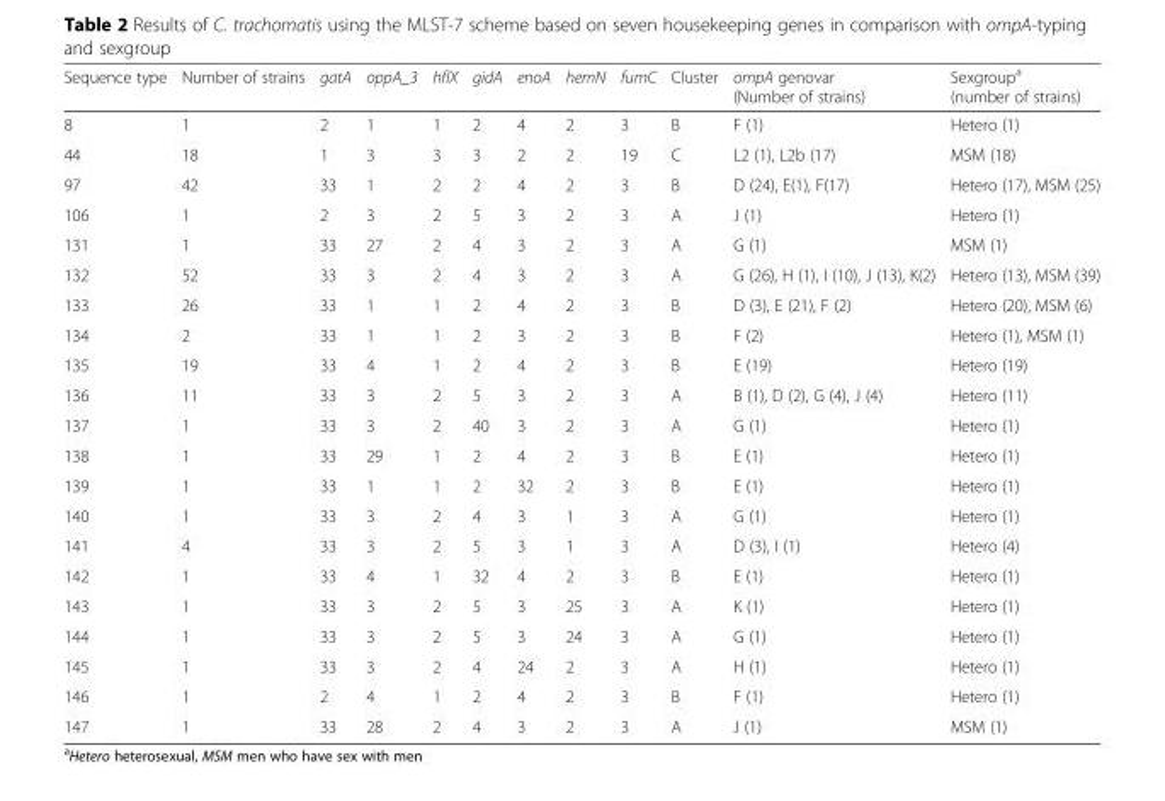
<table><thead><tr><td>Sequence type</td><td>Number of strains</td><td>gatA</td><td>oppA_3</td><td>hflX</td><td>gidA</td><td>enoA</td><td>hemN</td><td>fumC</td><td>Cluster</td><td>ompA genovar (Number of strains)</td><td>Sexgroup<sup>a</sup> (number of strains)</td></tr></thead><tbody><tr><td>8</td><td>1</td><td>2</td><td>1</td><td>1</td><td>2</td><td>4</td><td>2</td><td>3</td><td>B</td><td>F (1)</td><td>Hetero (1)</td></tr><tr><td>44</td><td>18</td><td>1</td><td>3</td><td>3</td><td>3</td><td>2</td><td>2</td><td>19</td><td>C</td><td>L2 (1), L2b (17)</td><td>MSM (18)</td></tr><tr><td>97</td><td>42</td><td>33</td><td>1</td><td>2</td><td>2</td><td>4</td><td>2</td><td>3</td><td>B</td><td>D (24), E(1), F(17)</td><td>Hetero (17), MSM (25)</td></tr><tr><td>106</td><td>1</td><td>2</td><td>3</td><td>2</td><td>5</td><td>3</td><td>2</td><td>3</td><td>A</td><td>J (1)</td><td>Hetero (1)</td></tr><tr><td>131</td><td>1</td><td>33</td><td>27</td><td>2</td><td>4</td><td>3</td><td>2</td><td>3</td><td>A</td><td>G (1)</td><td>MSM (1)</td></tr><tr><td>132</td><td>52</td><td>33</td><td>3</td><td>2</td><td>4</td><td>3</td><td>2</td><td>3</td><td>A</td><td>G (26), H (1), I (10), J (13), K(2)</td><td>Hetero (13), MSM (39)</td></tr><tr><td>133</td><td>26</td><td>33</td><td>1</td><td>1</td><td>2</td><td>4</td><td>2</td><td>3</td><td>B</td><td>D (3), E (21), F (2)</td><td>Hetero (20), MSM (6)</td></tr><tr><td>134</td><td>2</td><td>33</td><td>1</td><td>1</td><td>2</td><td>3</td><td>2</td><td>3</td><td>B</td><td>F (2)</td><td>Hetero (1), MSM (1)</td></tr><tr><td>135</td><td>19</td><td>33</td><td>4</td><td>1</td><td>2</td><td>4</td><td>2</td><td>3</td><td>B</td><td>E (19)</td><td>Hetero (19)</td></tr><tr><td>136</td><td>11</td><td>33</td><td>3</td><td>2</td><td>5</td><td>3</td><td>2</td><td>3</td><td>A</td><td>B (1), D (2), G (4), J (4)</td><td>Hetero (11)</td></tr><tr><td>137</td><td>1</td><td>33</td><td>3</td><td>2</td><td>40</td><td>3</td><td>2</td><td>3</td><td>A</td><td>G (1)</td><td>Hetero (1)</td></tr><tr><td>138</td><td>1</td><td>33</td><td>29</td><td>1</td><td>2</td><td>4</td><td>2</td><td>3</td><td>B</td><td>E (1)</td><td>Hetero (1)</td></tr><tr><td>139</td><td>1</td><td>33</td><td>1</td><td>1</td><td>2</td><td>32</td><td>2</td><td>3</td><td>B</td><td>E (1)</td><td>Hetero (1)</td></tr><tr><td>140</td><td>1</td><td>33</td><td>3</td><td>2</td><td>4</td><td>3</td><td>1</td><td>3</td><td>A</td><td>G (1)</td><td>Hetero (1)</td></tr><tr><td>141</td><td>4</td><td>33</td><td>3</td><td>2</td><td>5</td><td>3</td><td>1</td><td>3</td><td>A</td><td>D (3), I (1)</td><td>Hetero (4)</td></tr><tr><td>142</td><td>1</td><td>33</td><td>4</td><td>1</td><td>32</td><td>4</td><td>2</td><td>3</td><td>B</td><td>E (1)</td><td>Hetero (1)</td></tr><tr><td>143</td><td>1</td><td>33</td><td>3</td><td>2</td><td>5</td><td>3</td><td>25</td><td>3</td><td>A</td><td>K (1)</td><td>Hetero (1)</td></tr><tr><td>144</td><td>1</td><td>33</td><td>3</td><td>2</td><td>5</td><td>3</td><td>24</td><td>3</td><td>A</td><td>G (1)</td><td>Hetero (1)</td></tr><tr><td>145</td><td>1</td><td>33</td><td>3</td><td>2</td><td>4</td><td>24</td><td>2</td><td>3</td><td>A</td><td>H (1)</td><td>Hetero (1)</td></tr><tr><td>146</td><td>1</td><td>2</td><td>4</td><td>1</td><td>2</td><td>4</td><td>2</td><td>3</td><td>B</td><td>F (1)</td><td>Hetero (1)</td></tr><tr><td>147</td><td>1</td><td>33</td><td>28</td><td>2</td><td>4</td><td>3</td><td>2</td><td>3</td><td>A</td><td>J (1)</td><td>MSM (1)</td></tr></tbody></table>